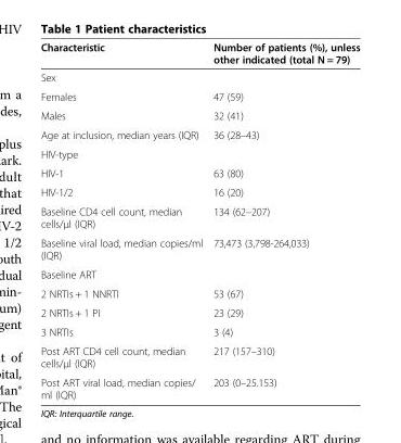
<table><thead><tr><td>Characteristic</td><td>Number of patients (%), unless other indicated (total N = 79)</td></tr></thead><tbody><tr><td colspan="2">Sex</td></tr><tr><td>Females</td><td>47 (59)</td></tr><tr><td>Males</td><td>32 (41)</td></tr><tr><td>Age at inclusion, median years (IQR)</td><td>36 (28–43)</td></tr><tr><td colspan="2">HIV-type</td></tr><tr><td>HIV-1</td><td>63 (80)</td></tr><tr><td>HIV-1/2</td><td>16 (20)</td></tr><tr><td>Baseline CD4 cell count, median cells/μl (IQR)</td><td>134 (62–207)</td></tr><tr><td>Baseline viral load, median copies/ml (IQR)</td><td>73,473 (3,798-264,033)</td></tr><tr><td colspan="2">Baseline ART</td></tr><tr><td>2 NRTIs + 1 NNRTI</td><td>53 (67)</td></tr><tr><td>2 NRTIs + 1 PI</td><td>23 (29)</td></tr><tr><td>3 NRTIs</td><td>3 (4)</td></tr><tr><td>Post ART CD4 cell count, median cells/μl (IQR)</td><td>217 (157–310)</td></tr><tr><td>Post ART viral load, median copies/ ml (IQR)</td><td>203 (0–25.153)</td></tr></tbody></table>